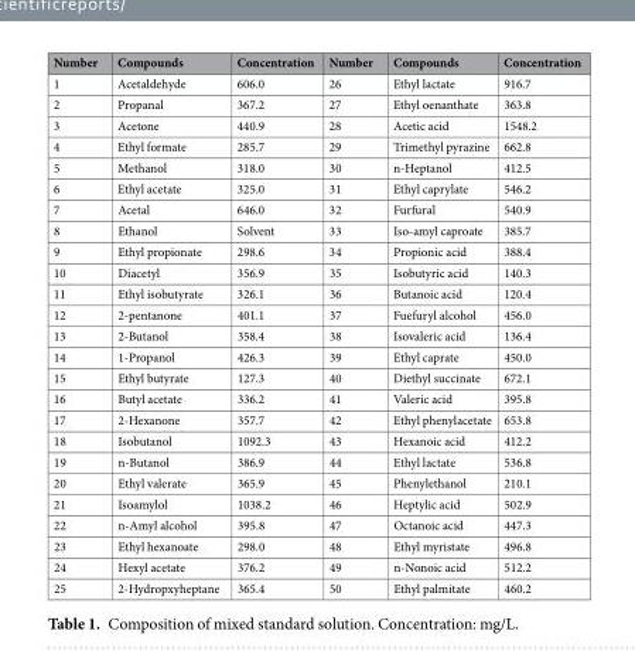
<table><thead><tr><td>Number</td><td>Compounds</td><td>Concentration</td><td>Number</td><td>Compounds</td><td>Concentration</td></tr></thead><tbody><tr><td>1</td><td>Acetaldehyde</td><td>606.0</td><td>26</td><td>Ethyl lactate</td><td>916.7</td></tr><tr><td>2</td><td>Propanal</td><td>367.2</td><td>27</td><td>Ethyl oenanthate</td><td>363.8</td></tr><tr><td>3</td><td>Acetone</td><td>440.9</td><td>28</td><td>Acetic acid</td><td>1548.2</td></tr><tr><td>4</td><td>Ethyl formate</td><td>285.7</td><td>29</td><td>Trimethyl pyrazine</td><td>662.8</td></tr><tr><td>5</td><td>Methanol</td><td>318.0</td><td>30</td><td>n-Heptanol</td><td>412.5</td></tr><tr><td>6</td><td>Ethyl acetate</td><td>325.0</td><td>31</td><td>Ethyl caprylate</td><td>546.2</td></tr><tr><td>7</td><td>Acetal</td><td>646.0</td><td>32</td><td>Furfural</td><td>540.9</td></tr><tr><td>8</td><td>Ethanol</td><td>Solvent</td><td>33</td><td>Iso-amyl caproate</td><td>385.7</td></tr><tr><td>9</td><td>Ethyl propionate</td><td>298.6</td><td>34</td><td>Propionic acid</td><td>388.4</td></tr><tr><td>10</td><td>Diacetyl</td><td>356.9</td><td>35</td><td>Isobutyric acid</td><td>140.3</td></tr><tr><td>11</td><td>Ethyl isobutyrate</td><td>326.1</td><td>36</td><td>Butanoic acid</td><td>120.4</td></tr><tr><td>12</td><td>2-pentanone</td><td>401.1</td><td>37</td><td>Fuefuryl alcohol</td><td>456.0</td></tr><tr><td>13</td><td>2-Butanol</td><td>358.4</td><td>38</td><td>Isovaleric acid</td><td>136.4</td></tr><tr><td>14</td><td>1-Propanol</td><td>426.3</td><td>39</td><td>Ethyl caprate</td><td>450.0</td></tr><tr><td>15</td><td>Ethyl butyrate</td><td>127.3</td><td>40</td><td>Diethyl succinate</td><td>672.1</td></tr><tr><td>16</td><td>Butyl acetate</td><td>336.2</td><td>41</td><td>Valeric acid</td><td>395.8</td></tr><tr><td>17</td><td>2-Hexanone</td><td>357.7</td><td>42</td><td>Ethyl phenylacetate</td><td>653.8</td></tr><tr><td>18</td><td>Isobutanol</td><td>1092.3</td><td>43</td><td>Hexanoic acid</td><td>412.2</td></tr><tr><td>19</td><td>n-Butanol</td><td>386.9</td><td>44</td><td>Ethyl lactate</td><td>536.8</td></tr><tr><td>20</td><td>Ethyl valerate</td><td>365.9</td><td>45</td><td>Phenylethanol</td><td>210.1</td></tr><tr><td>21</td><td>Isoamylol</td><td>1038.2</td><td>46</td><td>Heptylic acid</td><td>502.9</td></tr><tr><td>22</td><td>n-Amyl alcohol</td><td>395.8</td><td>47</td><td>Octanoic acid</td><td>447.3</td></tr><tr><td>23</td><td>Ethyl hexanoate</td><td>298.0</td><td>48</td><td>Ethyl myristate</td><td>496.8</td></tr><tr><td>24</td><td>Hexyl acetate</td><td>376.2</td><td>49</td><td>n-Nonoic acid</td><td>512.2</td></tr><tr><td>25</td><td>2-Hydropxyheptane</td><td>365.4</td><td>50</td><td>Ethyl palmitate</td><td>460.2</td></tr></tbody></table>